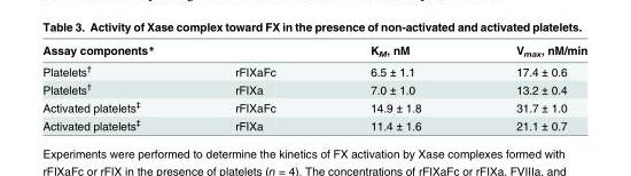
<table><thead><tr><td colspan="2">Assay components*</td><td rowspan="2">K<sub>M</sub>, nM 6.5 ± 1.1</td><td rowspan="2">V<sub>max</sub>, nM/min 17.4 ± 0.6</td></tr><tr><td>Platelets<sup>†</sup></td><td>rFIXaFc</td></tr></thead><tbody><tr><td>Platelets<sup>†</sup></td><td>rFIXa</td><td>7.0 ± 1.0</td><td>13.2 ± 0.4</td></tr><tr><td>Activated platelets<sup>‡</sup></td><td>rFIXaFc</td><td>14.9 ± 1.8</td><td>31.7 ± 1.0</td></tr><tr><td>Activated platelets<sup>‡</sup></td><td>rFIXa</td><td>11.4 ± 1.6</td><td>21.1 ± 0.7</td></tr></tbody></table>